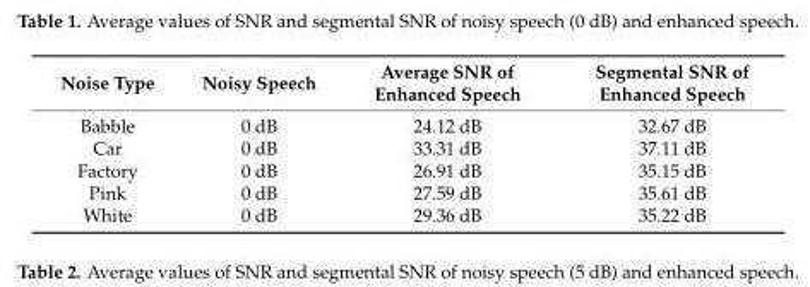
<table><thead><tr><td>Noise Type</td><td>Noisy Speech</td><td>Average SNR of Enhanced Speech</td><td>Segmental SNR of Enhanced Speech</td></tr></thead><tbody><tr><td>Babble</td><td>0 dB</td><td>24.12 dB</td><td>32.67 dB</td></tr><tr><td>Car</td><td>0 dB</td><td>33.31 dB</td><td>37.11 dB</td></tr><tr><td>Factory</td><td>0 dB</td><td>26.91 dB</td><td>35.15 dB</td></tr><tr><td>Pink</td><td>0 dB</td><td>27.59 dB</td><td>35.61 dB</td></tr><tr><td>White</td><td>0 dB</td><td>29.36 dB</td><td>35.22 dB</td></tr></tbody></table>